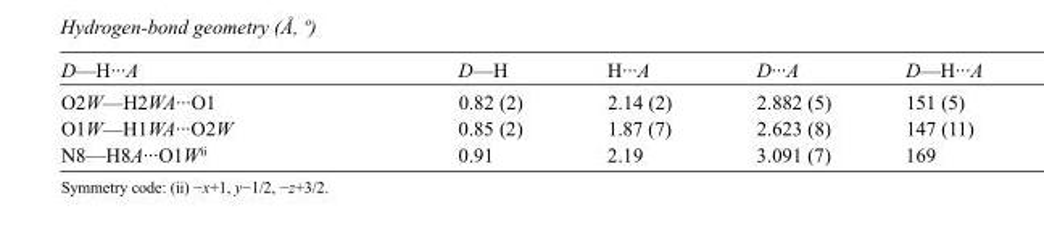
<table><tbody><tr><td>D—H···A</td><td>D—H</td><td>H···A</td><td>D···A</td><td>D—H···A</td></tr><tr><td>O2W—H2WA···O1</td><td>0.82 (2)</td><td>2.14 (2)</td><td>2.882 (5)</td><td>151 (5)</td></tr><tr><td>O1W—H1WA···O2W</td><td>0.85 (2)</td><td>1.87 (7)</td><td>2.623 (8)</td><td>147 (11)</td></tr><tr><td>N8—H8A···O1W<sup>ii</sup></td><td>0.91</td><td>2.19</td><td>3.091 (7)</td><td>169</td></tr></tbody></table>